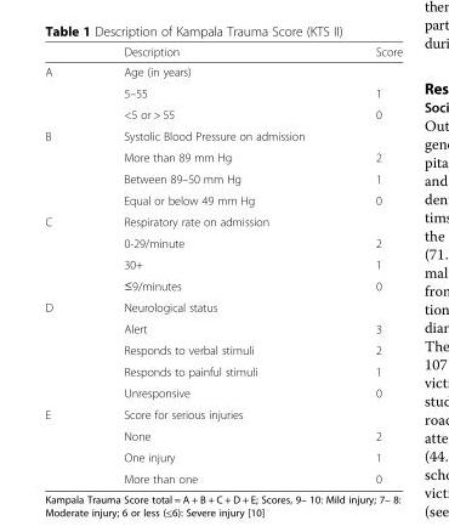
<table><thead><tr><td></td><td>Description</td><td>Score</td></tr></thead><tbody><tr><td rowspan="3">A</td><td>Age (in years)</td><td></td></tr><tr><td>5–55</td><td>1</td></tr><tr><td>&lt;5 or &gt; 55</td><td>0</td></tr><tr><td rowspan="4">B</td><td>Systolic Blood Pressure on admission</td><td></td></tr><tr><td>More than 89 mm Hg</td><td>2</td></tr><tr><td>Between 89–50 mm Hg</td><td>1</td></tr><tr><td>Equal or below 49 mm Hg</td><td>0</td></tr><tr><td rowspan="4">C</td><td>Respiratory rate on admission</td><td></td></tr><tr><td>0-29/minute</td><td>2</td></tr><tr><td>30+</td><td>1</td></tr><tr><td>≤9/minutes</td><td>0</td></tr><tr><td rowspan="5">D</td><td>Neurological status</td><td></td></tr><tr><td>Alert</td><td>3</td></tr><tr><td>Responds to verbal stimuli</td><td>2</td></tr><tr><td>Responds to painful stimuli</td><td>1</td></tr><tr><td>Unresponsive</td><td>0</td></tr><tr><td rowspan="4">E</td><td>Score for serious injuries</td><td></td></tr><tr><td>None</td><td>2</td></tr><tr><td>One injury</td><td>1</td></tr><tr><td>More than one</td><td>0</td></tr></tbody></table>